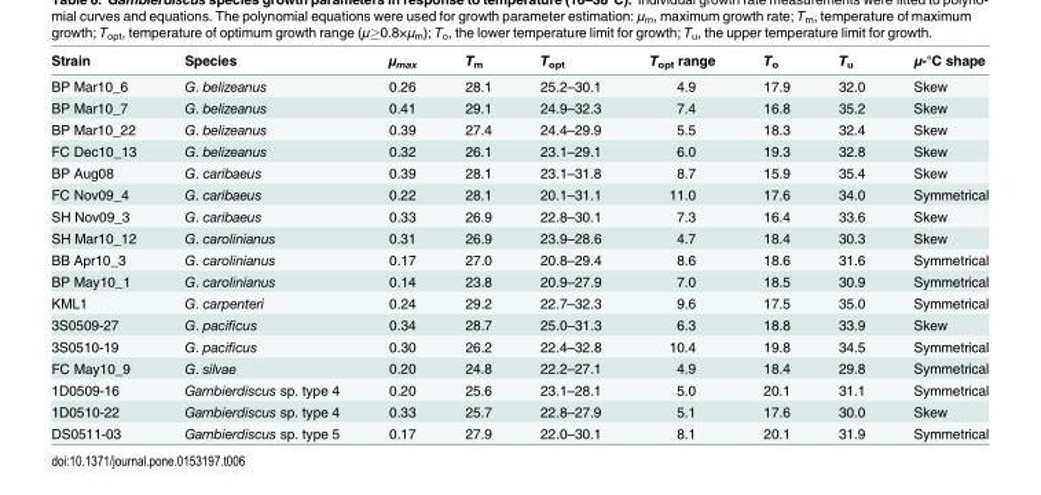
<table><thead><tr><td>Strain</td><td>Species</td><td>μ<sub>max</sub></td><td>T<sub>m</sub></td><td>T<sub>opt</sub></td><td>T<sub>opt</sub> range</td><td>T<sub>o</sub></td><td>T<sub>u</sub></td><td>μ-°C shape</td></tr></thead><tbody><tr><td>BP Mar10_6</td><td>G. belizeanus</td><td>0.26</td><td>28.1</td><td>25.2–30.1</td><td>4.9</td><td>17.9</td><td>32.0</td><td>Skew</td></tr><tr><td>BP Mar10_7</td><td>G. belizeanus</td><td>0.41</td><td>29.1</td><td>24.9–32.3</td><td>7.4</td><td>16.8</td><td>35.2</td><td>Skew</td></tr><tr><td>BP Mar10_22</td><td>G. belizeanus</td><td>0.39</td><td>27.4</td><td>24.4–29.9</td><td>5.5</td><td>18.3</td><td>32.4</td><td>Skew</td></tr><tr><td>FC Dec10_13</td><td>G. belizeanus</td><td>0.32</td><td>26.1</td><td>23.1–29.1</td><td>6.0</td><td>19.3</td><td>32.8</td><td>Skew</td></tr><tr><td>BP Aug08</td><td>G. caribaeus</td><td>0.39</td><td>28.1</td><td>23.1–31.8</td><td>8.7</td><td>15.9</td><td>35.4</td><td>Skew</td></tr><tr><td>FC Nov09_4</td><td>G. caribaeus</td><td>0.22</td><td>28.1</td><td>20.1–31.1</td><td>11.0</td><td>17.6</td><td>34.0</td><td>Symmetrical</td></tr><tr><td>SH Nov09_3</td><td>G. caribaeus</td><td>0.33</td><td>26.9</td><td>22.8–30.1</td><td>7.3</td><td>16.4</td><td>33.6</td><td>Skew</td></tr><tr><td>SH Mar10_12</td><td>G. carolinianus</td><td>0.31</td><td>26.9</td><td>23.9–28.6</td><td>4.7</td><td>18.4</td><td>30.3</td><td>Skew</td></tr><tr><td>BB Apr10_3</td><td>G. carolinianus</td><td>0.17</td><td>27.0</td><td>20.8–29.4</td><td>8.6</td><td>18.6</td><td>31.6</td><td>Symmetrical</td></tr><tr><td>BP May10_1</td><td>G. carolinianus</td><td>0.14</td><td>23.8</td><td>20.9–27.9</td><td>7.0</td><td>18.5</td><td>30.9</td><td>Symmetrical</td></tr><tr><td>KML1</td><td>G. carpenteri</td><td>0.24</td><td>29.2</td><td>22.7–32.3</td><td>9.6</td><td>17.5</td><td>35.0</td><td>Symmetrical</td></tr><tr><td>3S0509-27</td><td>G. pacificus</td><td>0.34</td><td>28.7</td><td>25.0–31.3</td><td>6.3</td><td>18.8</td><td>33.9</td><td>Skew</td></tr><tr><td>3S0510-19</td><td>G. pacificus</td><td>0.30</td><td>26.2</td><td>22.4–32.8</td><td>10.4</td><td>19.8</td><td>34.5</td><td>Symmetrical</td></tr><tr><td>FC May10_9</td><td>G. silvae</td><td>0.20</td><td>24.8</td><td>22.2–27.1</td><td>4.9</td><td>18.4</td><td>29.8</td><td>Symmetrical</td></tr><tr><td>1D0509-16</td><td>Gambierdiscus sp. type 4</td><td>0.20</td><td>25.6</td><td>23.1–28.1</td><td>5.0</td><td>20.1</td><td>31.1</td><td>Symmetrical</td></tr><tr><td>1D0510-22</td><td>Gambierdiscus sp. type 4</td><td>0.33</td><td>25.7</td><td>22.8–27.9</td><td>5.1</td><td>17.6</td><td>30.0</td><td>Skew</td></tr><tr><td>DS0511-03</td><td>Gambierdiscus sp. type 5</td><td>0.17</td><td>27.9</td><td>22.0–30.1</td><td>8.1</td><td>20.1</td><td>31.9</td><td>Symmetrical</td></tr></tbody></table>